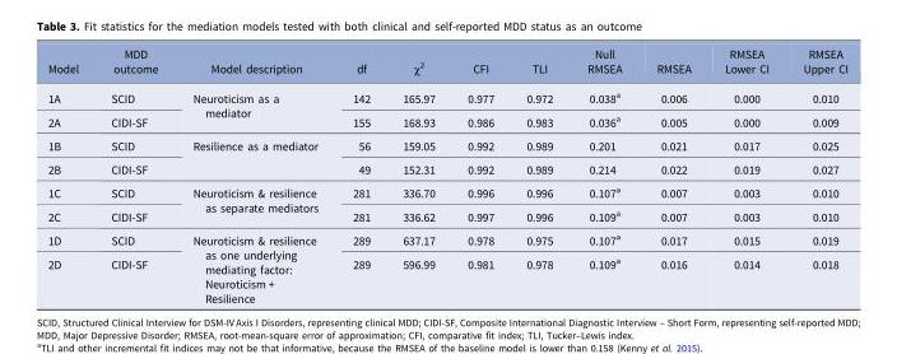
<table><thead><tr><td>Model</td><td>MDD outcome</td><td>Model description</td><td>df</td><td>χ<sup>2</sup></td><td>CFI</td><td>TLI</td><td>Null RMSEA</td><td>RMSEA</td><td>RMSEA Lower CI</td><td>RMSEA Upper CI</td></tr></thead><tbody><tr><td>1A</td><td>SCID</td><td rowspan="2">Neuroticism as a mediator</td><td>142</td><td>165.97</td><td>0.977</td><td>0.972</td><td>0.038<sup>a</sup></td><td>0.006</td><td>0.000</td><td>0.010</td></tr><tr><td>2A</td><td>CIDI-SF</td><td>155</td><td>168.93</td><td>0.986</td><td>0.983</td><td>0.036<sup>a</sup></td><td>0.005</td><td>0.000</td><td>0.009</td></tr><tr><td>1B</td><td>SCID</td><td rowspan="2">Resilience as a mediator</td><td>56</td><td>159.05</td><td>0.992</td><td>0.989</td><td>0.201</td><td>0.021</td><td>0.017</td><td>0.025</td></tr><tr><td>2B</td><td>CIDI-SF</td><td>49</td><td>152.31</td><td>0.992</td><td>0.989</td><td>0.214</td><td>0.022</td><td>0.019</td><td>0.027</td></tr><tr><td>1C</td><td>SCID</td><td rowspan="2">Neuroticism &amp; resilience as separate mediators</td><td>281</td><td>336.70</td><td>0.996</td><td>0.996</td><td>0.107<sup>a</sup></td><td>0.007</td><td>0.003</td><td>0.010</td></tr><tr><td>2C</td><td>CIDI-SF</td><td>281</td><td>336.62</td><td>0.997</td><td>0.996</td><td>0.109<sup>a</sup></td><td>0.007</td><td>0.003</td><td>0.010</td></tr><tr><td>1D</td><td>SCID</td><td rowspan="2">Neuroticism &amp; resilience as one underlying mediating factor: Neuroticism + Resilience</td><td>289</td><td>637.17</td><td>0.978</td><td>0.975</td><td>0.107<sup>a</sup></td><td>0.017</td><td>0.015</td><td>0.019</td></tr><tr><td>2D</td><td>CIDI-SF</td><td>289</td><td>596.99</td><td>0.981</td><td>0.978</td><td>0.109<sup>a</sup></td><td>0.016</td><td>0.014</td><td>0.018</td></tr></tbody></table>